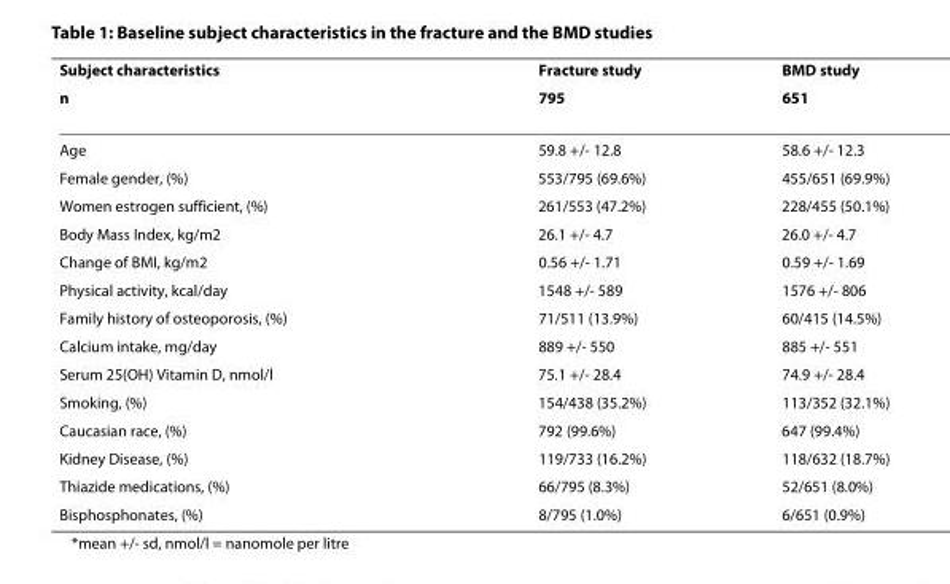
<table><thead><tr><td rowspan="2">Subject characteristics n</td><td rowspan="2">Fracture study 795</td><td rowspan="2">BMD study 651</td></tr><tr></tr></thead><tbody><tr><td>Age</td><td>59.8 +/- 12.8</td><td>58.6 +/- 12.3</td></tr><tr><td>Female gender, (%)</td><td>553/795 (69.6%)</td><td>455/651 (69.9%)</td></tr><tr><td>Women estrogen sufficient, (%)</td><td>261/553 (47.2%)</td><td>228/455 (50.1%)</td></tr><tr><td>Body Mass Index, kg/m2</td><td>26.1 +/- 4.7</td><td>26.0 +/- 4.7</td></tr><tr><td>Change of BMI, kg/m2</td><td>0.56 +/- 1.71</td><td>0.59 +/- 1.69</td></tr><tr><td>Physical activity, kcal/day</td><td>1548 +/- 589</td><td>1576 +/- 806</td></tr><tr><td>Family history of osteoporosis, (%)</td><td>71/511 (13.9%)</td><td>60/415 (14.5%)</td></tr><tr><td>Calcium intake, mg/day</td><td>889 +/- 550</td><td>885 +/- 551</td></tr><tr><td>Serum 25(OH) Vitamin D, nmol/l</td><td>75.1 +/- 28.4</td><td>74.9 +/- 28.4</td></tr><tr><td>Smoking, (%)</td><td>154/438 (35.2%)</td><td>113/352 (32.1%)</td></tr><tr><td>Caucasian race, (%)</td><td>792 (99.6%)</td><td>647 (99.4%)</td></tr><tr><td>Kidney Disease, (%)</td><td>119/733 (16.2%)</td><td>118/632 (18.7%)</td></tr><tr><td>Thiazide medications, (%)</td><td>66/795 (8.3%)</td><td>52/651 (8.0%)</td></tr><tr><td>Bisphosphonates, (%)</td><td>8/795 (1.0%)</td><td>6/651 (0.9%)</td></tr></tbody></table>